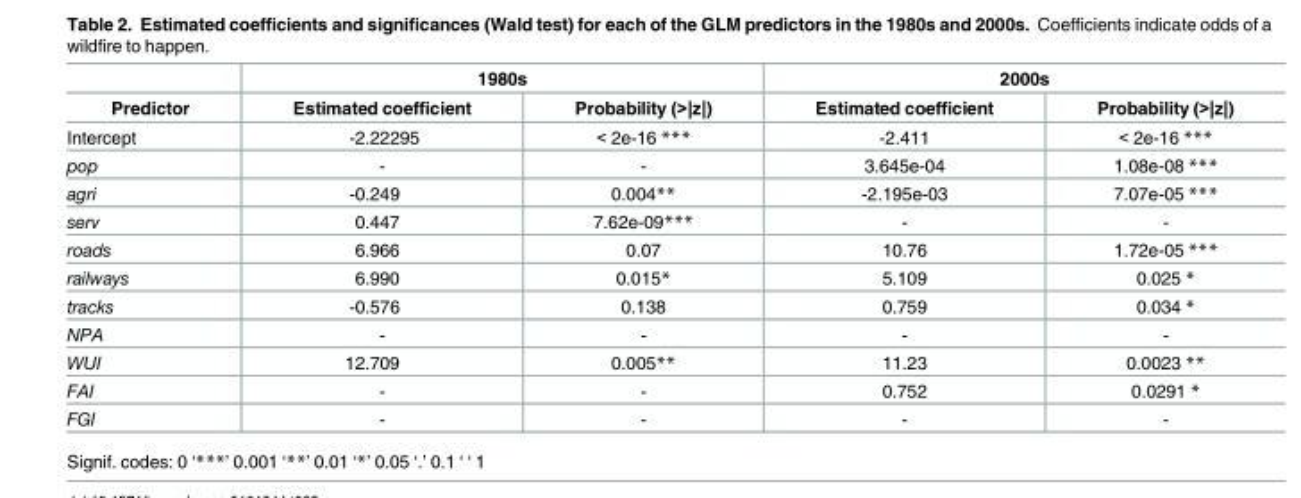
<table><thead><tr><td rowspan="2">Predictor</td><td colspan="2">1980s</td><td colspan="2">2000s</td></tr><tr><td>Estimated coefficient</td><td>Probability (&gt;|z|)</td><td>Estimated coefficient</td><td>Probability (&gt;|z|)</td></tr></thead><tbody><tr><td>Intercept</td><td>-2.22295</td><td>&lt; 2e-16 ***</td><td>-2.411</td><td>&lt; 2e-16 ***</td></tr><tr><td>pop</td><td>-</td><td>-</td><td>3.645e-04</td><td>1.08e-08 ***</td></tr><tr><td>agri</td><td>-0.249</td><td>0.004**</td><td>-2.195e-03</td><td>7.07e-05 ***</td></tr><tr><td>serv</td><td>0.447</td><td>7.62e-09***</td><td>-</td><td>-</td></tr><tr><td>roads</td><td>6.966</td><td>0.07</td><td>10.76</td><td>1.72e-05 ***</td></tr><tr><td>railways</td><td>6.990</td><td>0.015*</td><td>5.109</td><td>0.025 *</td></tr><tr><td>tracks</td><td>-0.576</td><td>0.138</td><td>0.759</td><td>0.034 *</td></tr><tr><td>NPA</td><td>-</td><td>-</td><td>-</td><td>-</td></tr><tr><td>WUI</td><td>12.709</td><td>0.005**</td><td>11.23</td><td>0.0023 **</td></tr><tr><td>FAI</td><td>-</td><td>-</td><td>0.752</td><td>0.0291 *</td></tr><tr><td>FGI</td><td>-</td><td>-</td><td>-</td><td>-</td></tr></tbody></table>